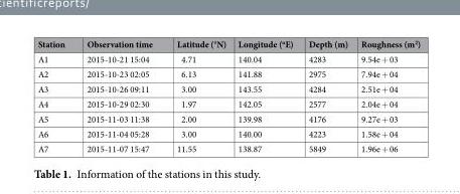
<table><thead><tr><td>Station</td><td>Observation time</td><td>Latitude (°N)</td><td>Longitude (<sup>o</sup>E)</td><td>Depth (m)</td><td>Roughness (m<sup>2</sup>)</td></tr></thead><tbody><tr><td>A1</td><td>2015-10-21 15:04</td><td>4.71</td><td>140.04</td><td>4283</td><td>9.54e + 03</td></tr><tr><td>A2</td><td>2015-10-23 02:05</td><td>6.13</td><td>141.88</td><td>2975</td><td>7.94e + 04</td></tr><tr><td>A3</td><td>2015-10-26 09:11</td><td>3.00</td><td>143.55</td><td>4284</td><td>2.51e + 04</td></tr><tr><td>A4</td><td>2015-10-29 02:30</td><td>1.97</td><td>142.05</td><td>2577</td><td>2.04e + 04</td></tr><tr><td>A5</td><td>2015-11-03 11:38</td><td>2.00</td><td>139.98</td><td>4176</td><td>9.27e + 03</td></tr><tr><td>A6</td><td>2015-11-04 05:28</td><td>3.00</td><td>140.00</td><td>4223</td><td>1.58e + 04</td></tr><tr><td>A7</td><td>2015-11-07 15:47</td><td>11.55</td><td>138.87</td><td>5849</td><td>1.96e + 06</td></tr></tbody></table>